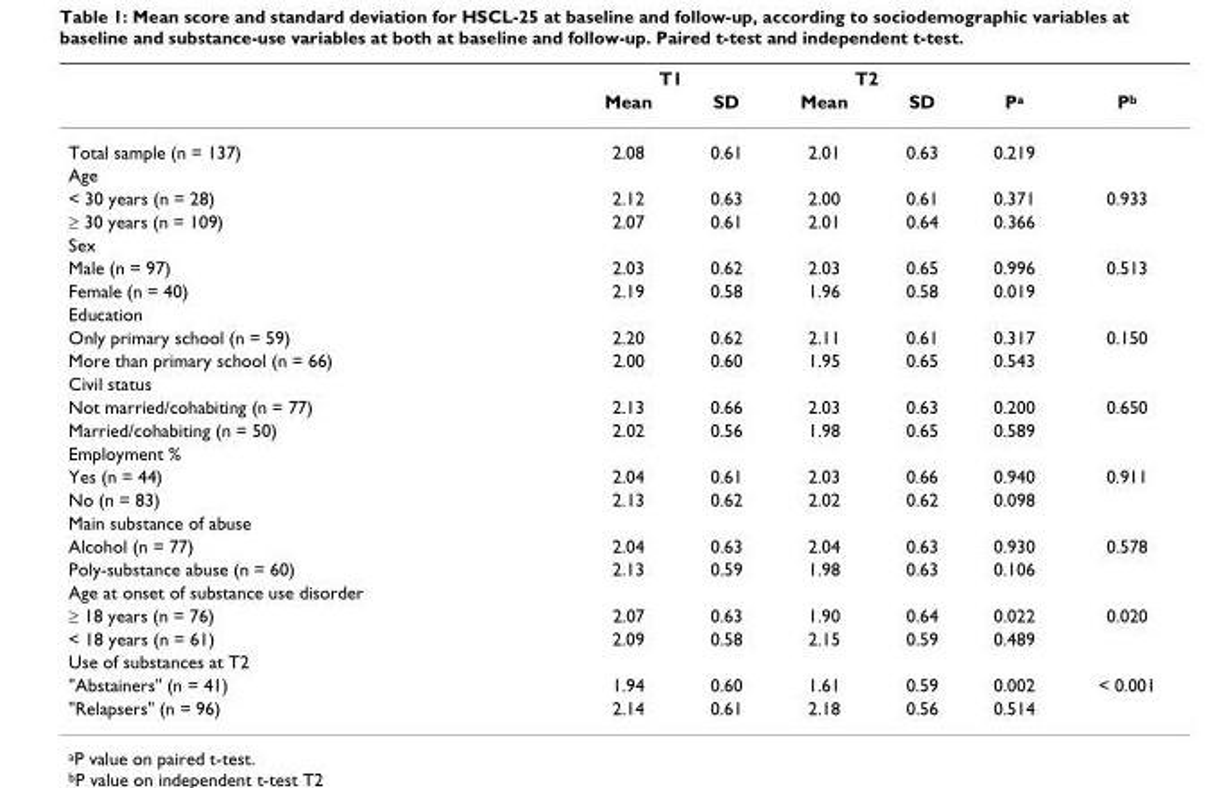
<table><thead><tr><td rowspan="2"></td><td colspan="2">T1</td><td colspan="2">T2</td><td rowspan="2">P<sup>a</sup></td><td rowspan="2">P<sup>b</sup></td></tr><tr><td>Mean</td><td>SD</td><td>Mean</td><td>SD</td></tr></thead><tbody><tr><td>Total sample (n = 137)</td><td>2.08</td><td>0.61</td><td>2.01</td><td>0.63</td><td>0.219</td><td></td></tr><tr><td colspan="7">Age</td></tr><tr><td>&lt; 30 years (n = 28)</td><td>2.12</td><td>0.63</td><td>2.00</td><td>0.61</td><td>0.371</td><td>0.933</td></tr><tr><td>≥ 30 years (n = 109)</td><td>2.07</td><td>0.61</td><td>2.01</td><td>0.64</td><td>0.366</td><td></td></tr><tr><td colspan="7">Sex</td></tr><tr><td>Male (n = 97)</td><td>2.03</td><td>0.62</td><td>2.03</td><td>0.65</td><td>0.996</td><td>0.513</td></tr><tr><td>Female (n = 40)</td><td>2.19</td><td>0.58</td><td>1.96</td><td>0.58</td><td>0.019</td><td></td></tr><tr><td colspan="7">Education</td></tr><tr><td>Only primary school (n = 59)</td><td>2.20</td><td>0.62</td><td>2.11</td><td>0.61</td><td>0.317</td><td>0.150</td></tr><tr><td>More than primary school (n = 66)</td><td>2.00</td><td>0.60</td><td>1.95</td><td>0.65</td><td>0.543</td><td></td></tr><tr><td colspan="7">Civil status</td></tr><tr><td>Not married/cohabiting (n = 77)</td><td>2.13</td><td>0.66</td><td>2.03</td><td>0.63</td><td>0.200</td><td>0.650</td></tr><tr><td>Married/cohabiting (n = 50)</td><td>2.02</td><td>0.56</td><td>1.98</td><td>0.65</td><td>0.589</td><td></td></tr><tr><td colspan="7">Employment %</td></tr><tr><td>Yes (n = 44)</td><td>2.04</td><td>0.61</td><td>2.03</td><td>0.66</td><td>0.940</td><td>0.911</td></tr><tr><td>No (n = 83)</td><td>2.13</td><td>0.62</td><td>2.02</td><td>0.62</td><td>0.098</td><td></td></tr><tr><td colspan="7">Main substance of abuse</td></tr><tr><td>Alcohol (n = 77)</td><td>2.04</td><td>0.63</td><td>2.04</td><td>0.63</td><td>0.930</td><td>0.578</td></tr><tr><td>Poly-substance abuse (n = 60)</td><td>2.13</td><td>0.59</td><td>1.98</td><td>0.63</td><td>0.106</td><td></td></tr><tr><td colspan="7">Age at onset of substance use disorder</td></tr><tr><td>≥ 18 years (n = 76)</td><td>2.07</td><td>0.63</td><td>1.90</td><td>0.64</td><td>0.022</td><td>0.020</td></tr><tr><td>&lt; 18 years (n = 61)</td><td>2.09</td><td>0.58</td><td>2.15</td><td>0.59</td><td>0.489</td><td></td></tr><tr><td colspan="7">Use of substances at T2</td></tr><tr><td>&quot;Abstainers&quot; (n = 41)</td><td>1.94</td><td>0.60</td><td>1.61</td><td>0.59</td><td>0.002</td><td>&lt; 0.001</td></tr><tr><td>&quot;Relapsers&quot; (n = 96)</td><td>2.14</td><td>0.61</td><td>2.18</td><td>0.56</td><td>0.514</td><td></td></tr></tbody></table>